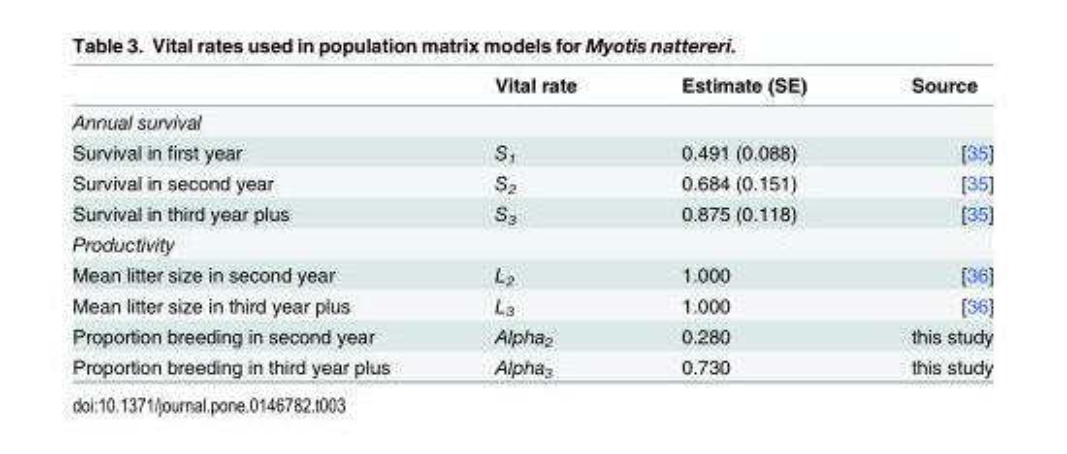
<table><thead><tr><td></td><td>Vital rate</td><td>Estimate (SE)</td><td>Source</td></tr></thead><tbody><tr><td colspan="4">Annual survival</td></tr><tr><td>Survival in first year</td><td>S<sub>1</sub></td><td>0.491 (0.088)</td><td>[35]</td></tr><tr><td>Survival in second year</td><td>S<sub>2</sub></td><td>0.684 (0.151)</td><td>[35]</td></tr><tr><td>Survival in third year plus</td><td>S<sub>3</sub></td><td>0.875 (0.118)</td><td>[35]</td></tr><tr><td colspan="4">Productivity</td></tr><tr><td>Mean litter size in second year</td><td>L<sub>2</sub></td><td>1.000</td><td>[36]</td></tr><tr><td>Mean litter size in third year plus</td><td>L<sub>3</sub></td><td>1.000</td><td>[36]</td></tr><tr><td>Proportion breeding in second year</td><td>Alpha<sub>2</sub></td><td>0.280</td><td>this study</td></tr><tr><td>Proportion breeding in third year plus</td><td>Alpha<sub>3</sub></td><td>0.730</td><td>this study</td></tr></tbody></table>